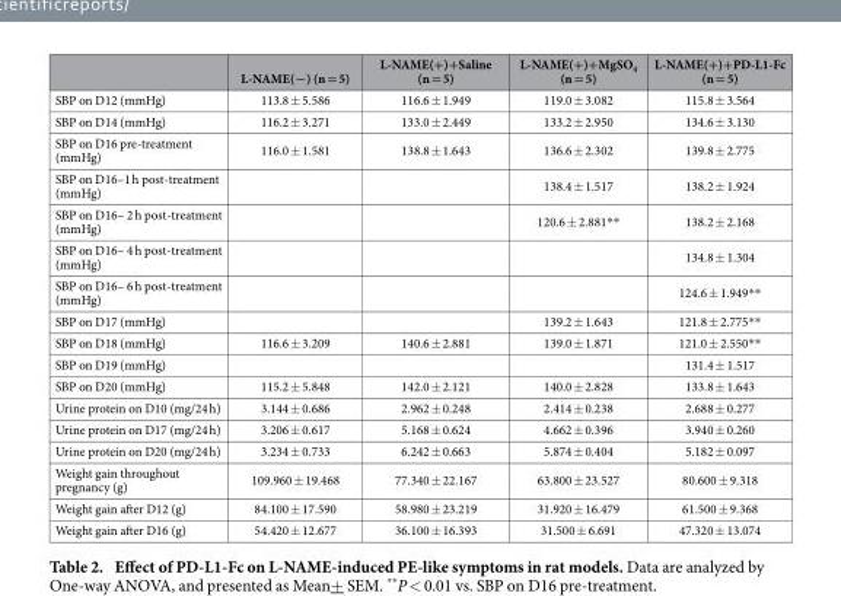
<table><thead><tr><td></td><td>L-NAME(−) (n = 5)</td><td>L-NAME(+)+Saline (n = 5)</td><td>L-NAME(+)+MgSO<sub>4</sub> (n = 5)</td><td>L-NAME(+)+PD-L1-Fc (n = 5)</td></tr></thead><tbody><tr><td>SBP on D12 (mmHg)</td><td>113.8 ± 5.586</td><td>116.6 ± 1.949</td><td>119.0 ± 3.082</td><td>115.8 ± 3.564</td></tr><tr><td>SBP on D14 (mmHg)</td><td>116.2 ± 3.271</td><td>133.0 ± 2.449</td><td>133.2 ± 2.950</td><td>134.6 ± 3.130</td></tr><tr><td>SBP on D16 pre-treatment (mmHg)</td><td>116.0 ± 1.581</td><td>138.8 ± 1.643</td><td>136.6 ± 2.302</td><td>139.8 ± 2.775</td></tr><tr><td>SBP on D16–1 h post-treatment (mmHg)</td><td></td><td></td><td>138.4 ± 1.517</td><td>138.2 ± 1.924</td></tr><tr><td>SBP on D16– 2 h post-treatment (mmHg)</td><td></td><td></td><td>120.6 ± 2.881* *</td><td>138.2 ± 2.168</td></tr><tr><td>SBP on D16– 4 h post-treatment (mmHg)</td><td></td><td></td><td></td><td>134.8 ± 1.304</td></tr><tr><td>SBP on D16– 6 h post-treatment (mmHg)</td><td></td><td></td><td></td><td>124.6 ± 1.949* *</td></tr><tr><td>SBP on D17 (mmHg)</td><td></td><td></td><td>139.2 ± 1.643</td><td>121.8 ± 2.775* *</td></tr><tr><td>SBP on D18 (mmHg)</td><td>116.6 ± 3.209</td><td>140.6 ± 2.881</td><td>139.0 ± 1.871</td><td>121.0 ± 2.550* *</td></tr><tr><td>SBP on D19 (mmHg)</td><td></td><td></td><td></td><td>131.4 ± 1.517</td></tr><tr><td>SBP on D20 (mmHg)</td><td>115.2 ± 5.848</td><td>142.0 ± 2.121</td><td>140.0 ± 2.828</td><td>133.8 ± 1.643</td></tr><tr><td>Urine protein on D10 (mg/24 h)</td><td>3.144 ± 0.686</td><td>2.962 ± 0.248</td><td>2.414 ± 0.238</td><td>2.688 ± 0.277</td></tr><tr><td>Urine protein on D17 (mg/24 h)</td><td>3.206 ± 0.617</td><td>5.168 ± 0.624</td><td>4.662 ± 0.396</td><td>3.940 ± 0.260</td></tr><tr><td>Urine protein on D20 (mg/24 h)</td><td>3.234 ± 0.733</td><td>6.242 ± 0.663</td><td>5.874 ± 0.404</td><td>5.182 ± 0.097</td></tr><tr><td>Weight gain throughout pregnancy (g)</td><td>109.960 ± 19.468</td><td>77.340 ± 22.167</td><td>63.800 ± 23.527</td><td>80.600 ± 9.318</td></tr><tr><td>Weight gain after D12 (g)</td><td>84.100 ± 17.590</td><td>58.980 ± 23.219</td><td>31.920 ± 16.479</td><td>61.500 ± 9.368</td></tr><tr><td>Weight gain after D16 (g)</td><td>54.420 ± 12.677</td><td>36.100 ± 16.393</td><td>31.500 ± 6.691</td><td>47.320 ± 13.074</td></tr></tbody></table>